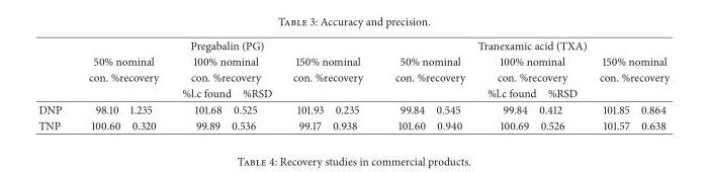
<table><thead><tr><td rowspan="4"></td><td colspan="3">Pregabalin (PG)</td><td colspan="3">Tranexamic acid (TXA)</td></tr><tr><td rowspan="2">50% nominal con. %recovery</td><td rowspan="2">100% nominal con. %recovery</td><td rowspan="2">150% nominal con. %recovery</td><td rowspan="2">50% nominal con. %recovery</td><td rowspan="2">100% nominal con. %recovery</td><td rowspan="2">150% nominal con. %recovery</td></tr><tr></tr><tr><td colspan="3">%l.c found %RSD</td><td colspan="3">%l.c found %RSD</td></tr></thead><tbody><tr><td>DNP</td><td>98.10 1.235</td><td>101.68 0.525</td><td>101.93 0.235</td><td>99.84 0.545</td><td>99.84 0.412</td><td>101.85 0.864</td></tr><tr><td>TNP</td><td>100.60 0.320</td><td>99.89 0.536</td><td>99.17 0.938</td><td>101.60 0.940</td><td>100.69 0.526</td><td>101.57 0.638</td></tr></tbody></table>